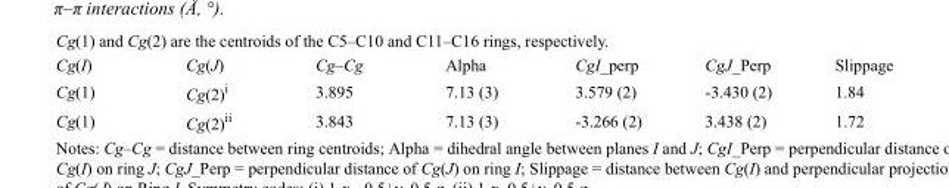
<table><tbody><tr><td>Cg(I)</td><td>Cg(J)</td><td>Cg–Cg</td><td>Alpha</td><td>CgI_perp</td><td>CgJ_Perp</td><td>Slippage</td></tr><tr><td>Cg(1)</td><td>Cg(2)<sup>i</sup></td><td>3.895</td><td>7.13 (3)</td><td>3.579 (2)</td><td>-3.430 (2)</td><td>1.84</td></tr><tr><td>Cg(1)</td><td>Cg(2)<sup>ii</sup></td><td>3.843</td><td>7.13 (3)</td><td>-3.266 (2)</td><td>3.438 (2)</td><td>1.72</td></tr></tbody></table>